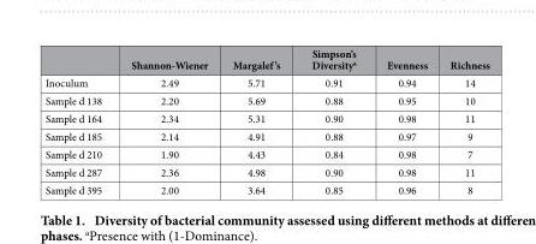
<table><thead><tr><td></td><td>Shannon-Wiener</td><td>Margalef’s</td><td>Simpson’s Diversity<sup>a</sup></td><td>Evenness</td><td>Richness</td></tr></thead><tbody><tr><td>Inoculum</td><td>2.49</td><td>5.71</td><td>0.91</td><td>0.94</td><td>14</td></tr><tr><td>Sample d 138</td><td>2.20</td><td>5.69</td><td>0.88</td><td>0.95</td><td>10</td></tr><tr><td>Sample d 164</td><td>2.34</td><td>5.31</td><td>0.90</td><td>0.98</td><td>11</td></tr><tr><td>Sample d 185</td><td>2.14</td><td>4.91</td><td>0.88</td><td>0.97</td><td>9</td></tr><tr><td>Sample d 210</td><td>1.90</td><td>4.43</td><td>0.84</td><td>0.98</td><td>7</td></tr><tr><td>Sample d 287</td><td>2.36</td><td>4.98</td><td>0.90</td><td>0.98</td><td>11</td></tr><tr><td>Sample d 395</td><td>2.00</td><td>3.64</td><td>0.85</td><td>0.96</td><td>8</td></tr></tbody></table>